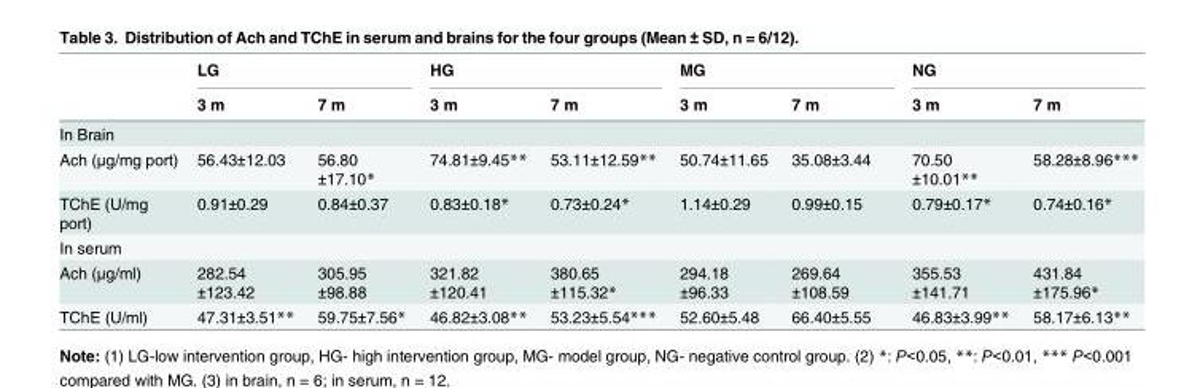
<table><thead><tr><td rowspan="2"></td><td colspan="2">LG</td><td colspan="2">HG</td><td colspan="2">MG</td><td colspan="2">NG</td></tr><tr><td>3 m</td><td>7 m</td><td>3 m</td><td>7 m</td><td>3 m</td><td>7 m</td><td>3 m</td><td>7 m</td></tr></thead><tbody><tr><td colspan="9">In Brain</td></tr><tr><td>Ach (μg/mg port)</td><td>56.43±12.03</td><td>56.80 ±17.10*</td><td>74.81±9.45**</td><td>53.11±12.59**</td><td>50.74±11.65</td><td>35.08±3.44</td><td>70.50 ±10.01**</td><td>58.28±8.96***</td></tr><tr><td>TChE (U/mg port)</td><td>0.91±0.29</td><td>0.84±0.37</td><td>0.83±0.18*</td><td>0.73±0.24*</td><td>1.14±0.29</td><td>0.99±0.15</td><td>0.79±0.17*</td><td>0.74±0.16*</td></tr><tr><td colspan="9">In serum</td></tr><tr><td>Ach (μg/ml)</td><td>282.54 ±123.42</td><td>305.95 ±98.88</td><td>321.82 ±120.41</td><td>380.65 ±115.32*</td><td>294.18 ±96.33</td><td>269.64 ±108.59</td><td>355.53 ±141.71</td><td>431.84 ±175.96*</td></tr><tr><td>TChE (U/ml)</td><td>47.31±3.51**</td><td>59.75±7.56*</td><td>46.82±3.08**</td><td>53.23±5.54***</td><td>52.60±5.48</td><td>66.40±5.55</td><td>46.83±3.99**</td><td>58.17±6.13**</td></tr></tbody></table>